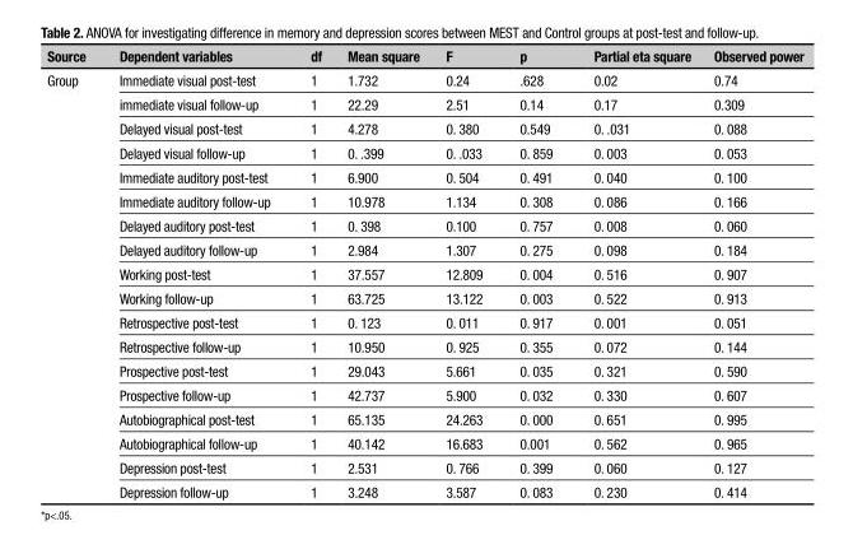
<table><thead><tr><td>Source</td><td>Dependent variables</td><td>df</td><td>Mean square</td><td>F</td><td>p</td><td>Partial eta square</td><td>Observed power</td></tr></thead><tbody><tr><td rowspan="18">Group</td><td>Immediate visual post-test</td><td>1</td><td>1.732</td><td>0.24</td><td>.628</td><td>0.02</td><td>0.74</td></tr><tr><td>immediate visual follow-up</td><td>1</td><td>22.29</td><td>2.51</td><td>0.14</td><td>0.17</td><td>0.309</td></tr><tr><td>Delayed visual post-test</td><td>1</td><td>4.278</td><td>0. 380</td><td>0.549</td><td>0. .031</td><td>0. 088</td></tr><tr><td>Delayed visual follow-up</td><td>1</td><td>0. .399</td><td>0. .033</td><td>0. 859</td><td>0. 003</td><td>0. 053</td></tr><tr><td>Immediate auditory post-test</td><td>1</td><td>6.900</td><td>0. 504</td><td>0. 491</td><td>0. 040</td><td>0. 100</td></tr><tr><td>Immediate auditory follow-up</td><td>1</td><td>10.978</td><td>1.134</td><td>0. 308</td><td>0. 086</td><td>0. 166</td></tr><tr><td>Delayed auditory post-test</td><td>1</td><td>0. 398</td><td>0.100</td><td>0. 757</td><td>0. 008</td><td>0. 060</td></tr><tr><td>Delayed auditory follow-up</td><td>1</td><td>2.984</td><td>1.307</td><td>0. 275</td><td>0. 098</td><td>0. 184</td></tr><tr><td>Working post-test</td><td>1</td><td>37.557</td><td>12.809</td><td>0. 004</td><td>0. 516</td><td>0. 907</td></tr><tr><td>Working follow-up</td><td>1</td><td>63.725</td><td>13.122</td><td>0. 003</td><td>0. 522</td><td>0. 913</td></tr><tr><td>Retrospective post-test</td><td>1</td><td>0. 123</td><td>0. 011</td><td>0. 917</td><td>0. 001</td><td>0. 051</td></tr><tr><td>Retrospective follow-up</td><td>1</td><td>10.950</td><td>0. 925</td><td>0. 355</td><td>0. 072</td><td>0. 144</td></tr><tr><td>Prospective post-test</td><td>1</td><td>29.043</td><td>5.661</td><td>0. 035</td><td>0. 321</td><td>0. 590</td></tr><tr><td>Prospective follow-up</td><td>1</td><td>42.737</td><td>5.900</td><td>0. 032</td><td>0. 330</td><td>0. 607</td></tr><tr><td>Autobiographical post-test</td><td>1</td><td>65.135</td><td>24.263</td><td>0. 000</td><td>0. 651</td><td>0. 995</td></tr><tr><td>Autobiographical follow-up</td><td>1</td><td>40.142</td><td>16.683</td><td>0.001</td><td>0. 562</td><td>0. 965</td></tr><tr><td>Depression post-test</td><td>1</td><td>2.531</td><td>0. 766</td><td>0. 399</td><td>0. 060</td><td>0. 127</td></tr><tr><td>Depression follow-up</td><td>1</td><td>3.248</td><td>3.587</td><td>0. 083</td><td>0. 230</td><td>0. 414</td></tr></tbody></table>